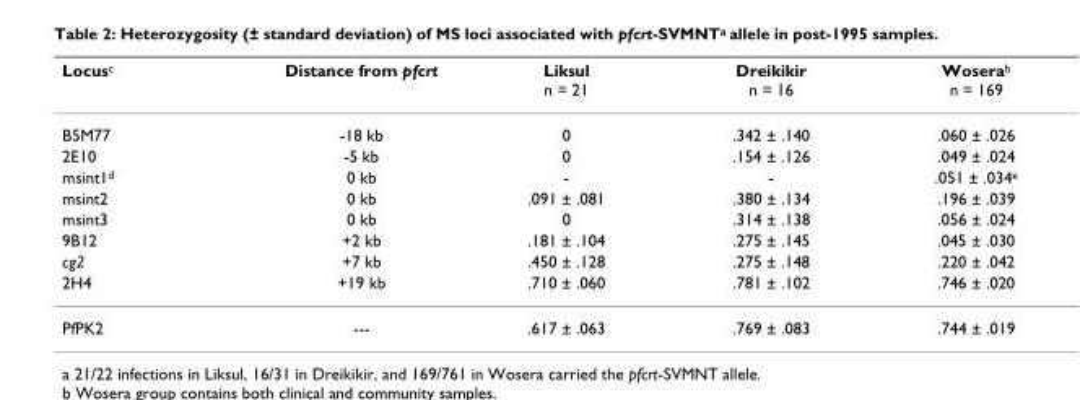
<table><thead><tr><td>Locus<sup>c</sup></td><td>Distance from pfcrt</td><td>Liksul n = 21</td><td>Dreikikir n = 16</td><td>Wosera<sup>b</sup> n = 169</td></tr></thead><tbody><tr><td>B5M77</td><td>-18 kb</td><td>0</td><td>.342 ± .140</td><td>.060 ± .026</td></tr><tr><td>2E10</td><td>-5 kb</td><td>0</td><td>.154 ± .126</td><td>.049 ± .024</td></tr><tr><td>msint1<sup>d</sup></td><td>0 kb</td><td>-</td><td>-</td><td>.051 ± .034<sup>e</sup></td></tr><tr><td>msint2</td><td>0 kb</td><td>.091 ± .081</td><td>.380 ± .134</td><td>.196 ± .039</td></tr><tr><td>msint3</td><td>0 kb</td><td>0</td><td>.314 ± .138</td><td>.056 ± .024</td></tr><tr><td>9B12</td><td>+2 kb</td><td>.181 ± .104</td><td>.275 ± .145</td><td>.045 ± .030</td></tr><tr><td>cg2</td><td>+7 kb</td><td>.450 ± .128</td><td>.275 ± .148</td><td>.220 ± .042</td></tr><tr><td>2H4</td><td>+19 kb</td><td>.710 ± .060</td><td>.781 ± .102</td><td>.746 ± .020</td></tr><tr><td>PfPK2</td><td>---</td><td>.617 ± .063</td><td>.769 ± .083</td><td>.744 ± .019</td></tr></tbody></table>